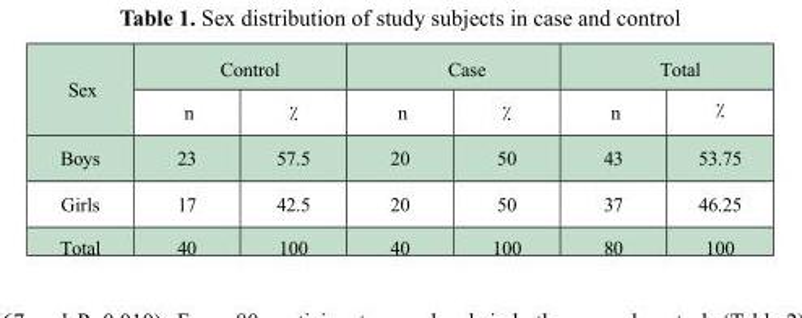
<table><thead><tr><td rowspan="2">Sex</td><td colspan="2">Control</td><td colspan="2">Case</td><td colspan="2">Total</td></tr><tr><td>n</td><td>%</td><td>n</td><td>%</td><td>n</td><td>%</td></tr></thead><tbody><tr><td>Boys</td><td>23</td><td>57.5</td><td>20</td><td>50</td><td>43</td><td>53.75</td></tr><tr><td>Girls</td><td>17</td><td>42.5</td><td>20</td><td>50</td><td>37</td><td>46.25</td></tr><tr><td>Total</td><td>40</td><td>100</td><td>40</td><td>100</td><td>80</td><td>100</td></tr></tbody></table>